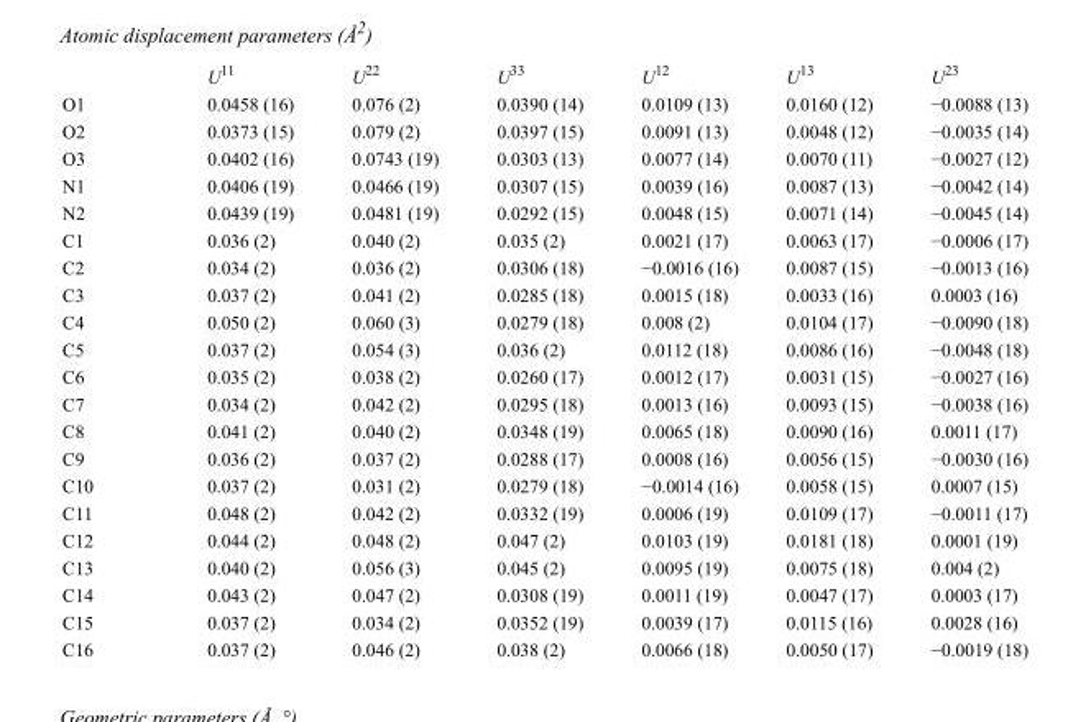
<table><thead><tr><td></td><td>U<sup>11</sup></td><td>U<sup>22</sup></td><td>U<sup>33</sup></td><td>U<sup>12</sup></td><td>U<sup>13</sup></td><td>U<sup>23</sup></td></tr></thead><tbody><tr><td>O1</td><td>0.0458 (16)</td><td>0.076 (2)</td><td>0.0390 (14)</td><td>0.0109 (13)</td><td>0.0160 (12)</td><td>−0.0088 (13)</td></tr><tr><td>O2</td><td>0.0373 (15)</td><td>0.079 (2)</td><td>0.0397 (15)</td><td>0.0091 (13)</td><td>0.0048 (12)</td><td>−0.0035 (14)</td></tr><tr><td>O3</td><td>0.0402 (16)</td><td>0.0743 (19)</td><td>0.0303 (13)</td><td>0.0077 (14)</td><td>0.0070 (11)</td><td>−0.0027 (12)</td></tr><tr><td>N1</td><td>0.0406 (19)</td><td>0.0466 (19)</td><td>0.0307 (15)</td><td>0.0039 (16)</td><td>0.0087 (13)</td><td>−0.0042 (14)</td></tr><tr><td>N2</td><td>0.0439 (19)</td><td>0.0481 (19)</td><td>0.0292 (15)</td><td>0.0048 (15)</td><td>0.0071 (14)</td><td>−0.0045 (14)</td></tr><tr><td>C1</td><td>0.036 (2)</td><td>0.040 (2)</td><td>0.035 (2)</td><td>0.0021 (17)</td><td>0.0063 (17)</td><td>−0.0006 (17)</td></tr><tr><td>C2</td><td>0.034 (2)</td><td>0.036 (2)</td><td>0.0306 (18)</td><td>−0.0016 (16)</td><td>0.0087 (15)</td><td>−0.0013 (16)</td></tr><tr><td>C3</td><td>0.037 (2)</td><td>0.041 (2)</td><td>0.0285 (18)</td><td>0.0015 (18)</td><td>0.0033 (16)</td><td>0.0003 (16)</td></tr><tr><td>C4</td><td>0.050 (2)</td><td>0.060 (3)</td><td>0.0279 (18)</td><td>0.008 (2)</td><td>0.0104 (17)</td><td>−0.0090 (18)</td></tr><tr><td>C5</td><td>0.037 (2)</td><td>0.054 (3)</td><td>0.036 (2)</td><td>0.0112 (18)</td><td>0.0086 (16)</td><td>−0.0048 (18)</td></tr><tr><td>C6</td><td>0.035 (2)</td><td>0.038 (2)</td><td>0.0260 (17)</td><td>0.0012 (17)</td><td>0.0031 (15)</td><td>−0.0027 (16)</td></tr><tr><td>C7</td><td>0.034 (2)</td><td>0.042 (2)</td><td>0.0295 (18)</td><td>0.0013 (16)</td><td>0.0093 (15)</td><td>−0.0038 (16)</td></tr><tr><td>C8</td><td>0.041 (2)</td><td>0.040 (2)</td><td>0.0348 (19)</td><td>0.0065 (18)</td><td>0.0090 (16)</td><td>0.0011 (17)</td></tr><tr><td>C9</td><td>0.036 (2)</td><td>0.037 (2)</td><td>0.0288 (17)</td><td>0.0008 (16)</td><td>0.0056 (15)</td><td>−0.0030 (16)</td></tr><tr><td>C10</td><td>0.037 (2)</td><td>0.031 (2)</td><td>0.0279 (18)</td><td>−0.0014 (16)</td><td>0.0058 (15)</td><td>0.0007 (15)</td></tr><tr><td>C11</td><td>0.048 (2)</td><td>0.042 (2)</td><td>0.0332 (19)</td><td>0.0006 (19)</td><td>0.0109 (17)</td><td>−0.0011 (17)</td></tr><tr><td>C12</td><td>0.044 (2)</td><td>0.048 (2)</td><td>0.047 (2)</td><td>0.0103 (19)</td><td>0.0181 (18)</td><td>0.0001 (19)</td></tr><tr><td>C13</td><td>0.040 (2)</td><td>0.056 (3)</td><td>0.045 (2)</td><td>0.0095 (19)</td><td>0.0075 (18)</td><td>0.004 (2)</td></tr><tr><td>C14</td><td>0.043 (2)</td><td>0.047 (2)</td><td>0.0308 (19)</td><td>0.0011 (19)</td><td>0.0047 (17)</td><td>0.0003 (17)</td></tr><tr><td>C15</td><td>0.037 (2)</td><td>0.034 (2)</td><td>0.0352 (19)</td><td>0.0039 (17)</td><td>0.0115 (16)</td><td>0.0028 (16)</td></tr><tr><td>C16</td><td>0.037 (2)</td><td>0.046 (2)</td><td>0.038 (2)</td><td>0.0066 (18)</td><td>0.0050 (17)</td><td>−0.0019 (18)</td></tr></tbody></table>